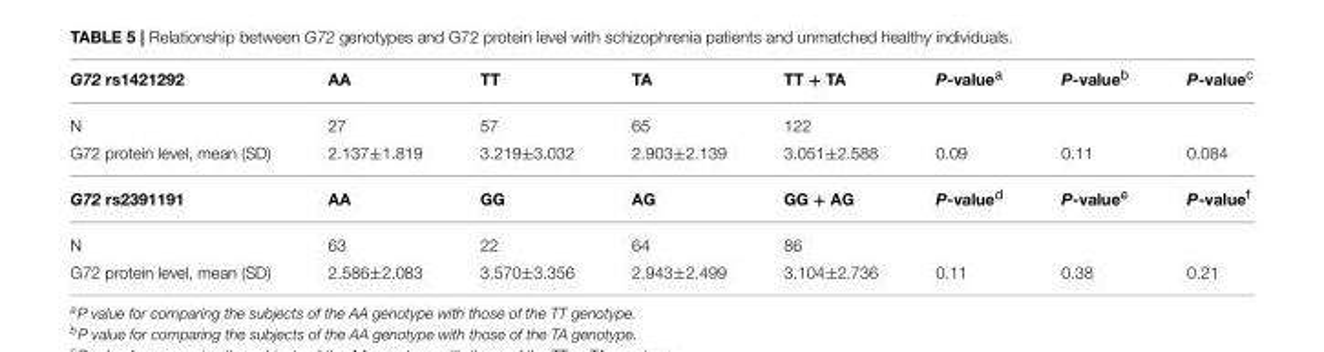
<table><thead><tr><td>G72 rs1421292</td><td>AA</td><td>TT</td><td>TA</td><td>TT + TA</td><td>P-value<sup>a</sup></td><td>P-value<sup>b</sup></td><td>P-value<sup>c</sup></td></tr></thead><tbody><tr><td>N</td><td>27</td><td>57</td><td>65</td><td>122</td><td></td><td></td><td></td></tr><tr><td>G72 protein level, mean (SD)</td><td>2.137±1.819</td><td>3.219±3.032</td><td>2.903±2.139</td><td>3.051±2.588</td><td>0.09</td><td>0.11</td><td>0.084</td></tr><tr><td>G72 rs2391191</td><td>AA</td><td>GG</td><td>AG</td><td>GG + AG</td><td>P-value<sup>d</sup></td><td>P-value<sup>e</sup></td><td>P-value<sup>f</sup></td></tr><tr><td>N</td><td>63</td><td>22</td><td>64</td><td>86</td><td></td><td></td><td></td></tr><tr><td>G72 protein level, mean (SD)</td><td>2.586±2.083</td><td>3.570±3.356</td><td>2.943±2.499</td><td>3.104±2.736</td><td>0.11</td><td>0.38</td><td>0.21</td></tr></tbody></table>